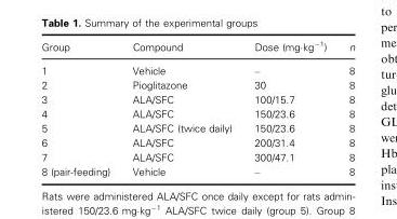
<table><thead><tr><td>Group</td><td>Compound</td><td>Dose (mg·kg<sup>−1</sup>)</td><td>n</td></tr></thead><tbody><tr><td>1</td><td>Vehicle</td><td>–</td><td>8</td></tr><tr><td>2</td><td>Pioglitazone</td><td>30</td><td>8</td></tr><tr><td>3</td><td>ALA/SFC</td><td>100/15.7</td><td>8</td></tr><tr><td>4</td><td>ALA/SFC</td><td>150/23.6</td><td>8</td></tr><tr><td>5</td><td>ALA/SFC (twice daily)</td><td>150/23.6</td><td>8</td></tr><tr><td>6</td><td>ALA/SFC</td><td>200/31.4</td><td>8</td></tr><tr><td>7</td><td>ALA/SFC</td><td>300/47.1</td><td>8</td></tr><tr><td>8 (pair-feeding)</td><td>Vehicle</td><td>–</td><td>8</td></tr></tbody></table>